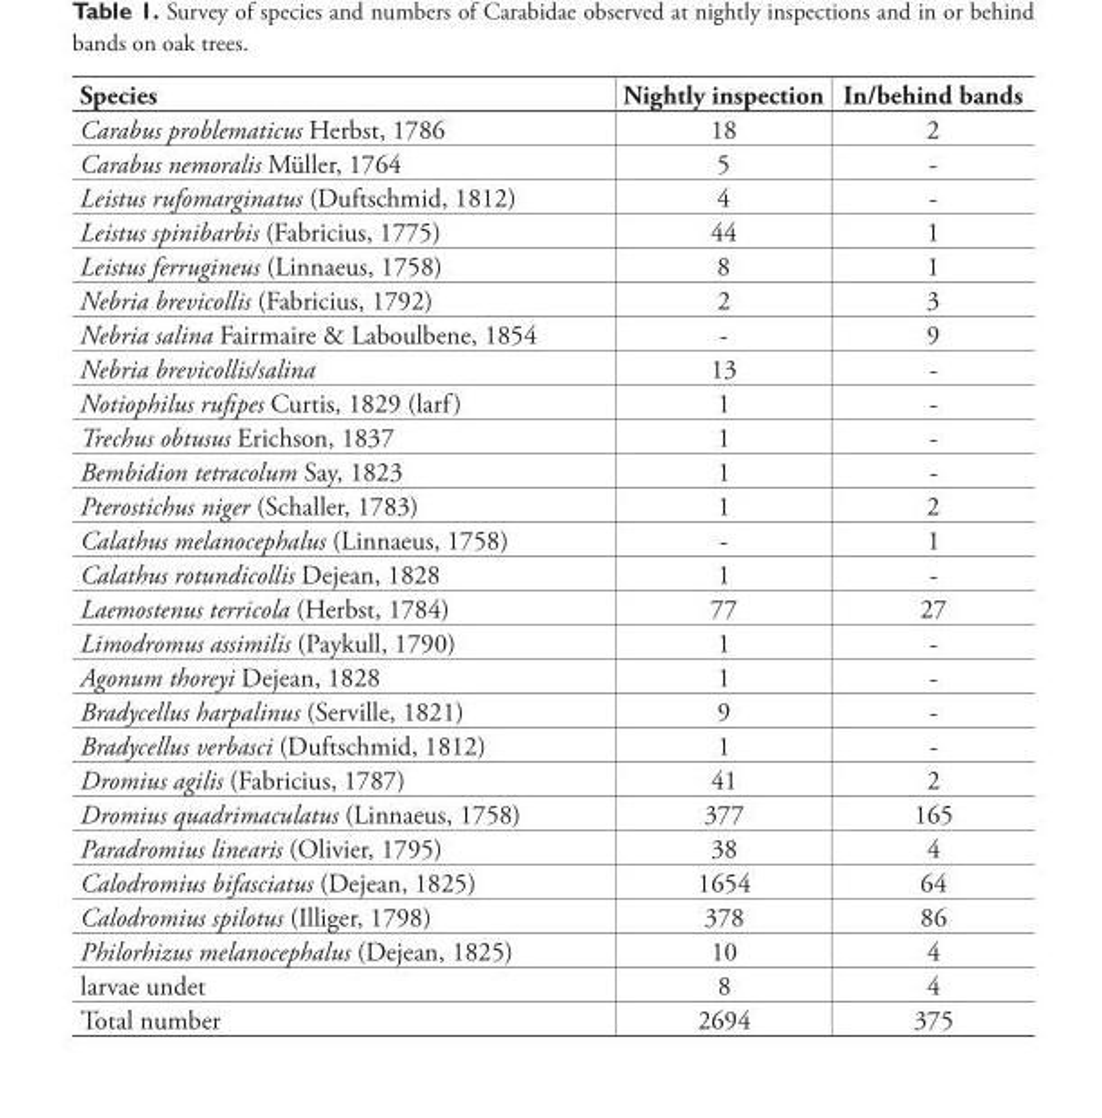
<table><thead><tr><td>Species</td><td>Nightly inspection</td><td>In/behind bands</td></tr></thead><tbody><tr><td>Carabus problematicus Herbst, 1786</td><td>18</td><td>2</td></tr><tr><td>Carabus nemoralis Müller, 1764</td><td>5</td><td>-</td></tr><tr><td>Leistus rufomarginatus (Duftschmid, 1812)</td><td>4</td><td>-</td></tr><tr><td>Leistus spinibarbis (Fabricius, 1775)</td><td>44</td><td>1</td></tr><tr><td>Leistus ferrugineus (Linnaeus, 1758)</td><td>8</td><td>1</td></tr><tr><td>Nebria brevicollis (Fabricius, 1792)</td><td>2</td><td>3</td></tr><tr><td>Nebria salina Fairmaire &amp; Laboulbene, 1854</td><td>-</td><td>9</td></tr><tr><td>Nebria brevicollis/salina</td><td>13</td><td>-</td></tr><tr><td>Notiophilus rufipes Curtis, 1829 (larf)</td><td>1</td><td>-</td></tr><tr><td>Trechus obtusus Erichson, 1837</td><td>1</td><td>-</td></tr><tr><td>Bembidion tetracolum Say, 1823</td><td>1</td><td>-</td></tr><tr><td>Pterostichus niger (Schaller, 1783)</td><td>1</td><td>2</td></tr><tr><td>Calathus melanocephalus (Linnaeus, 1758)</td><td>-</td><td>1</td></tr><tr><td>Calathus rotundicollis Dejean, 1828</td><td>1</td><td>-</td></tr><tr><td>Laemostenus terricola (Herbst, 1784)</td><td>77</td><td>27</td></tr><tr><td>Limodromus assimilis (Paykull, 1790)</td><td>1</td><td>-</td></tr><tr><td>Agonum thoreyi Dejean, 1828</td><td>1</td><td>-</td></tr><tr><td>Bradycellus harpalinus (Serville, 1821)</td><td>9</td><td>-</td></tr><tr><td>Bradycellus verbasci (Duftschmid, 1812)</td><td>1</td><td>-</td></tr><tr><td>Dromius agilis (Fabricius, 1787)</td><td>41</td><td>2</td></tr><tr><td>Dromius quadrimaculatus (Linnaeus, 1758)</td><td>377</td><td>165</td></tr><tr><td>Paradromius linearis (Olivier, 1795)</td><td>38</td><td>4</td></tr><tr><td>Calodromius bifasciatus (Dejean, 1825)</td><td>1654</td><td>64</td></tr><tr><td>Calodromius spilotus (Illiger, 1798)</td><td>378</td><td>86</td></tr><tr><td>Philorhizus melanocephalus (Dejean, 1825)</td><td>10</td><td>4</td></tr><tr><td>larvae undet</td><td>8</td><td>4</td></tr><tr><td>Total number</td><td>2694</td><td>375</td></tr></tbody></table>